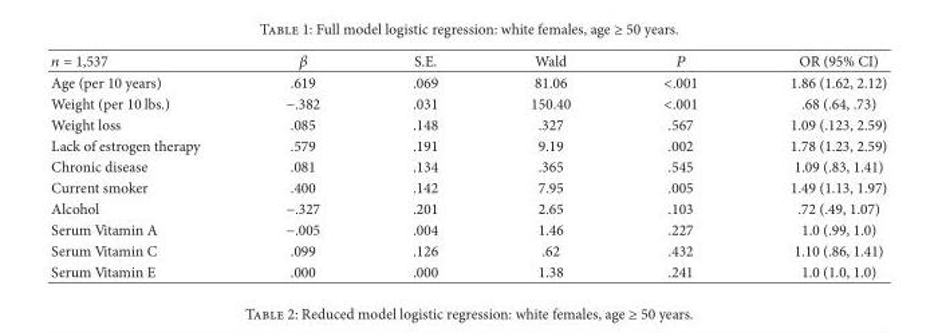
<table><thead><tr><td>𝑛𝑛 𝑛 1,537</td><td>𝛽𝛽</td><td>S.E.</td><td>Wald</td><td>𝑃𝑃</td><td>OR (95% CI)</td></tr></thead><tbody><tr><td>Age (per 10 years)</td><td>.619</td><td>.069</td><td>81.06</td><td>&lt;.001</td><td>1.86 (1.62, 2.12)</td></tr><tr><td>Weight (per 10 lbs.)</td><td>−.382</td><td>.031</td><td>150.40</td><td>&lt;.001</td><td>.68 (.64, .73)</td></tr><tr><td>Weight loss</td><td>.085</td><td>.148</td><td>.327</td><td>.567</td><td>1.09 (.123, 2.59)</td></tr><tr><td>Lack of estrogen therapy</td><td>.579</td><td>.191</td><td>9.19</td><td>.002</td><td>1.78 (1.23, 2.59)</td></tr><tr><td>Chronic disease</td><td>.081</td><td>.134</td><td>.365</td><td>.545</td><td>1.09 (.83, 1.41)</td></tr><tr><td>Current smoker</td><td>.400</td><td>.142</td><td>7.95</td><td>.005</td><td>1.49 (1.13, 1.97)</td></tr><tr><td>Alcohol</td><td>−.327</td><td>.201</td><td>2.65</td><td>.103</td><td>.72 (.49, 1.07)</td></tr><tr><td>Serum Vitamin A</td><td>−.005</td><td>.004</td><td>1.46</td><td>.227</td><td>1.0 (.99, 1.0)</td></tr><tr><td>Serum Vitamin C</td><td>.099</td><td>.126</td><td>.62</td><td>.432</td><td>1.10 (.86, 1.41)</td></tr><tr><td>Serum Vitamin E</td><td>.000</td><td>.000</td><td>1.38</td><td>.241</td><td>1.0 (1.0, 1.0)</td></tr></tbody></table>